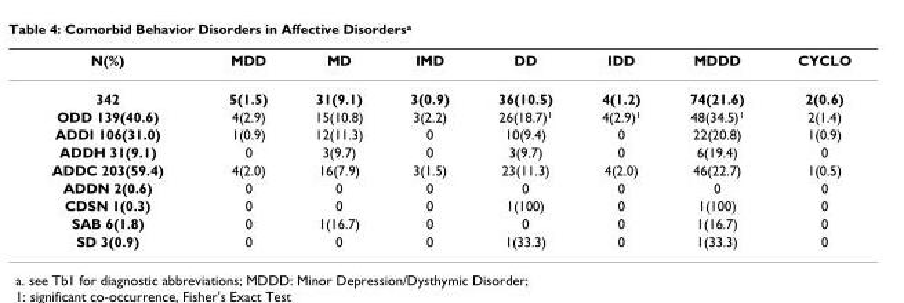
<table><thead><tr><td>N(%)</td><td>MDD</td><td>MD</td><td>IMD</td><td>DD</td><td>IDD</td><td>MDDD</td><td>CYCLO</td></tr></thead><tbody><tr><td>342</td><td>5(1.5)</td><td>31(9.1)</td><td>3(0.9)</td><td>36(10.5)</td><td>4(1.2)</td><td>74(21.6)</td><td>2(0.6)</td></tr><tr><td>ODD 139(40.6)</td><td>4(2.9)</td><td>15(10.8)</td><td>3(2.2)</td><td>26(18.7)<sup>1</sup></td><td>4(2.9)<sup>1</sup></td><td>48(34.5)<sup>1</sup></td><td>2(1.4)</td></tr><tr><td>ADDI 106(31.0)</td><td>1(0.9)</td><td>12(11.3)</td><td>0</td><td>10(9.4)</td><td>0</td><td>22(20.8)</td><td>1(0.9)</td></tr><tr><td>ADDH 31(9.1)</td><td>0</td><td>3(9.7)</td><td>0</td><td>3(9.7)</td><td>0</td><td>6(19.4)</td><td>0</td></tr><tr><td>ADDC 203(59.4)</td><td>4(2.0)</td><td>16(7.9)</td><td>3(1.5)</td><td>23(11.3)</td><td>4(2.0)</td><td>46(22.7)</td><td>1(0.5)</td></tr><tr><td>ADDN 2(0.6)</td><td>0</td><td>0</td><td>0</td><td>0</td><td>0</td><td>0</td><td>0</td></tr><tr><td>CDSN 1(0.3)</td><td>0</td><td>0</td><td>0</td><td>1(100)</td><td>0</td><td>1(100)</td><td>0</td></tr><tr><td>SAB 6(1.8)</td><td>0</td><td>1(16.7)</td><td>0</td><td>0</td><td>0</td><td>1(16.7)</td><td>0</td></tr><tr><td>SD 3(0.9)</td><td>0</td><td>0</td><td>0</td><td>1(33.3)</td><td>0</td><td>1(33.3)</td><td>0</td></tr></tbody></table>